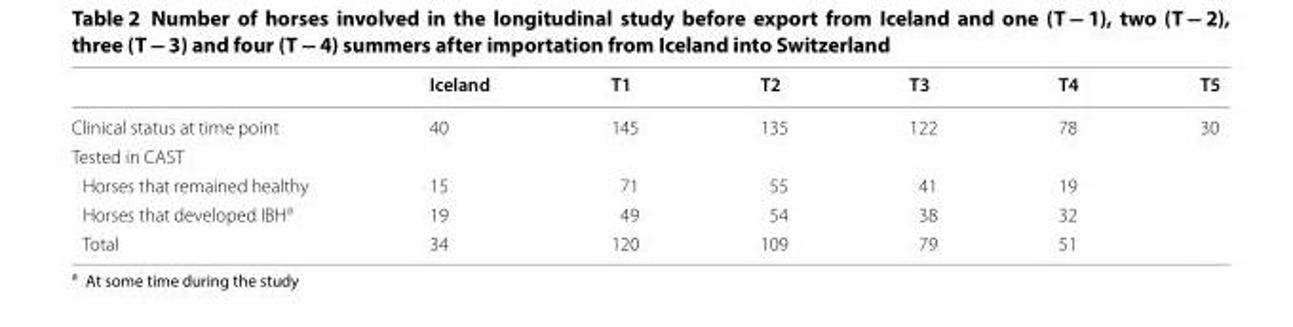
<table><thead><tr><td></td><td>Iceland</td><td>T1</td><td>T2</td><td>T3</td><td>T4</td><td>T5</td></tr></thead><tbody><tr><td>Clinical status at time point</td><td>40</td><td>145</td><td>135</td><td>122</td><td>78</td><td>30</td></tr><tr><td colspan="7">Tested in CAST</td></tr><tr><td>Horses that remained healthy</td><td>15</td><td>71</td><td>55</td><td>41</td><td>19</td><td></td></tr><tr><td>Horses that developed IBH<sup>a</sup></td><td>19</td><td>49</td><td>54</td><td>38</td><td>32</td><td></td></tr><tr><td>Total</td><td>34</td><td>120</td><td>109</td><td>79</td><td>51</td><td></td></tr></tbody></table>